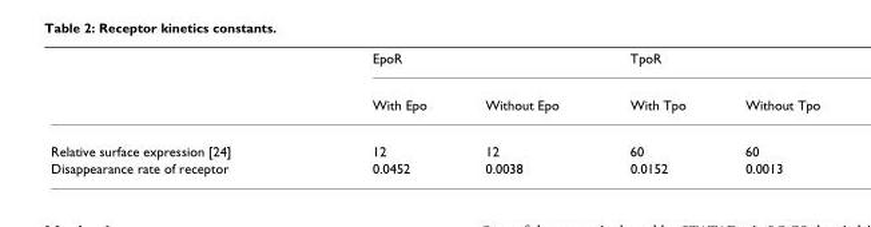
<table><thead><tr><td rowspan="2"></td><td colspan="2">EpoR</td><td colspan="2">TpoR</td></tr><tr><td>With Epo</td><td>Without Epo</td><td>With Tpo</td><td>Without Tpo</td></tr></thead><tbody><tr><td>Relative surface expression [24]</td><td>12</td><td>12</td><td>60</td><td>60</td></tr><tr><td>Disappearance rate of receptor</td><td>0.0452</td><td>0.0038</td><td>0.0152</td><td>0.0013</td></tr></tbody></table>